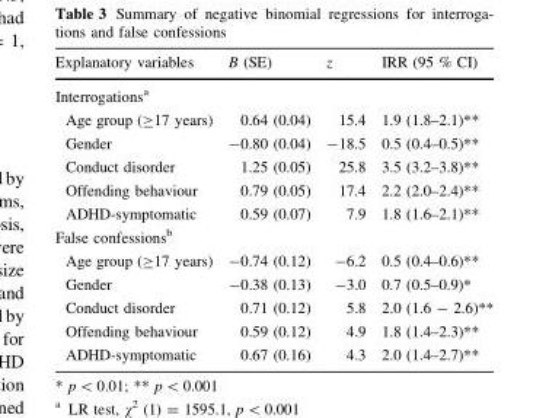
<table><thead><tr><td>Explanatory variables</td><td>B (SE)</td><td>z</td><td>IRR (95 % CI)</td></tr></thead><tbody><tr><td colspan="4">Interrogations<sup>a</sup></td></tr><tr><td>Age group (≥17 years)</td><td>0.64 (0.04)</td><td>15.4</td><td>1.9 (1.8–2.1)**</td></tr><tr><td>Gender</td><td>-0.80 (0.04)</td><td>-18.5</td><td>0.5 (0.4–0.5)**</td></tr><tr><td>Conduct disorder</td><td>1.25 (0.05)</td><td>25.8</td><td>3.5 (3.2–3.8)**</td></tr><tr><td>Offending behaviour</td><td>0.79 (0.05)</td><td>17.4</td><td>2.2 (2.0–2.4)**</td></tr><tr><td>ADHD-symptomatic</td><td>0.59 (0.07)</td><td>7.9</td><td>1.8 (1.6–2.1)**</td></tr><tr><td colspan="4">False confessions<sup>b</sup></td></tr><tr><td>Age group (≥17 years)</td><td>-0.74 (0.12)</td><td>-6.2</td><td>0.5 (0.4–0.6)**</td></tr><tr><td>Gender</td><td>-0.38 (0.13)</td><td>-3.0</td><td>0.7 (0.5–0.9)*</td></tr><tr><td>Conduct disorder</td><td>0.71 (0.12)</td><td>5.8</td><td>2.0 (1.6 - 2.6)**</td></tr><tr><td>Offending behaviour</td><td>0.59 (0.12)</td><td>4.9</td><td>1.8 (1.4–2.3)**</td></tr><tr><td>ADHD-symptomatic</td><td>0.67 (0.16)</td><td>4.3</td><td>2.0 (1.4–2.7)**</td></tr></tbody></table>